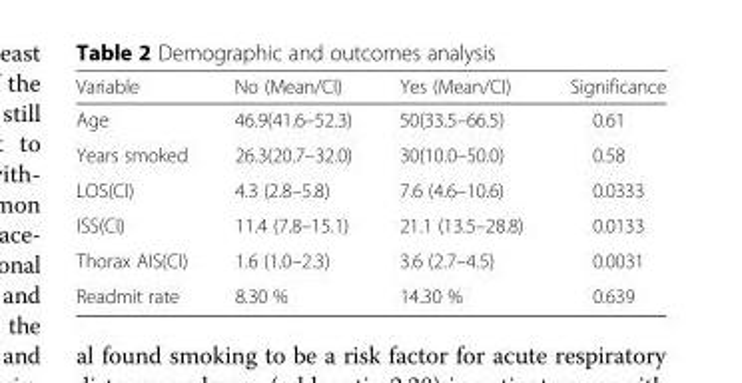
<table><thead><tr><td>Variable</td><td>No (Mean/CI)</td><td>Yes (Mean/CI)</td><td>Significance</td></tr></thead><tbody><tr><td>Age</td><td>46.9(41.6–52.3)</td><td>50(33.5–66.5)</td><td>0.61</td></tr><tr><td>Years smoked</td><td>26.3(20.7–32.0)</td><td>30(10.0–50.0)</td><td>0.58</td></tr><tr><td>LOS(CI)</td><td>4.3 (2.8–5.8)</td><td>7.6 (4.6–10.6)</td><td>0.0333</td></tr><tr><td>ISS(CI)</td><td>11.4 (7.8–15.1)</td><td>21.1 (13.5–28.8)</td><td>0.0133</td></tr><tr><td>Thorax AIS(CI)</td><td>1.6 (1.0–2.3)</td><td>3.6 (2.7–4.5)</td><td>0.0031</td></tr><tr><td>Readmit rate</td><td>8.30 %</td><td>14.30 %</td><td>0.639</td></tr></tbody></table>